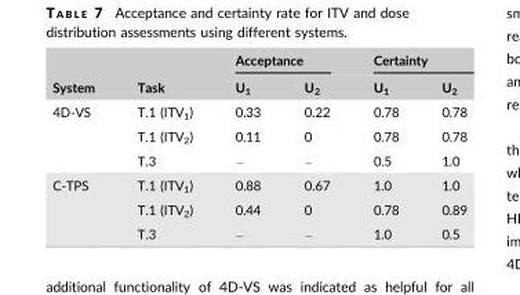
<table><thead><tr><td rowspan="2">System</td><td rowspan="2">Task</td><td colspan="2">Acceptance</td><td colspan="2">Certainty</td></tr><tr><td>U<sub>1</sub></td><td>U<sub>2</sub></td><td>U<sub>1</sub></td><td>U<sub>2</sub></td></tr></thead><tbody><tr><td rowspan="3">4D-VS</td><td>T.1 (ITV<sub>1</sub>)</td><td>0.33</td><td>0.22</td><td>0.78</td><td>0.78</td></tr><tr><td>T.1 (ITV<sub>2</sub>)</td><td>0.11</td><td>0</td><td>0.78</td><td>0.78</td></tr><tr><td>T.3</td><td>–</td><td>–</td><td>0.5</td><td>1.0</td></tr><tr><td rowspan="3">C-TPS</td><td>T.1 (ITV<sub>1</sub>)</td><td>0.88</td><td>0.67</td><td>1.0</td><td>1.0</td></tr><tr><td>T.1 (ITV<sub>2</sub>)</td><td>0.44</td><td>0</td><td>0.78</td><td>0.89</td></tr><tr><td>T.3</td><td>–</td><td>–</td><td>1.0</td><td>0.5</td></tr></tbody></table>